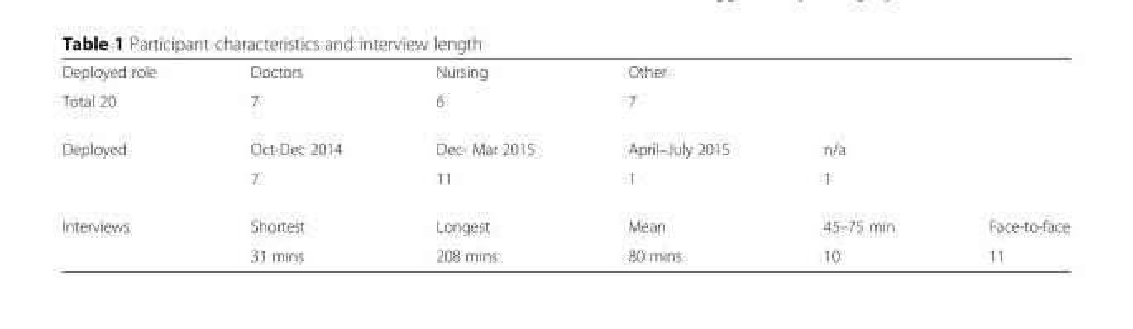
<table><tbody><tr><td>Deployed role</td><td>Doctors</td><td>Nursing</td><td colspan="3">Other</td></tr><tr><td>Total 20</td><td>7</td><td>6</td><td colspan="3">7</td></tr><tr><td rowspan="2">Deployed</td><td>Oct-Dec 2014</td><td>Dec- Mar 2015</td><td>April–July 2015</td><td colspan="2">n/a</td></tr><tr><td>7</td><td>11</td><td>1</td><td colspan="2">1</td></tr><tr><td rowspan="2">Interviews</td><td>Shortest</td><td>Longest</td><td>Mean</td><td>45–75 min</td><td>Face-to-face</td></tr><tr><td>31 mins</td><td>208 mins</td><td>80 mins</td><td>10</td><td>11</td></tr></tbody></table>